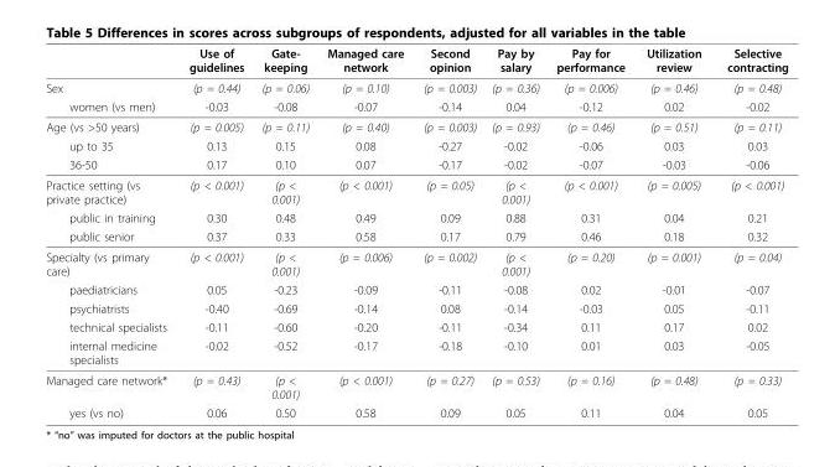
<table><thead><tr><td></td><td>Use of guidelines</td><td>Gate- keeping</td><td>Managed care network</td><td>Second opinion</td><td>Pay by salary</td><td>Pay for performance</td><td>Utilization review</td><td>Selective contracting</td></tr></thead><tbody><tr><td>Sex</td><td>(p = 0.44)</td><td>(p = 0.06)</td><td>(p = 0.10)</td><td>(p = 0.003)</td><td>(p = 0.36)</td><td>(p = 0.006)</td><td>(p = 0.46)</td><td>(p = 0.48)</td></tr><tr><td>women (vs men)</td><td>-0.03</td><td>-0.08</td><td>-0.07</td><td>-0.14</td><td>0.04</td><td>-0.12</td><td>0.02</td><td>-0.02</td></tr><tr><td>Age (vs &gt;50 years)</td><td>(p = 0.005)</td><td>(p = 0.11)</td><td>(p = 0.40)</td><td>(p = 0.003)</td><td>(p = 0.93)</td><td>(p = 0.46)</td><td>(p = 0.51)</td><td>(p = 0.11)</td></tr><tr><td>up to 35</td><td>0.13</td><td>0.15</td><td>0.08</td><td>-0.27</td><td>-0.02</td><td>-0.06</td><td>0.03</td><td>0.03</td></tr><tr><td>36-50</td><td>0.17</td><td>0.10</td><td>0.07</td><td>-0.17</td><td>-0.02</td><td>-0.07</td><td>-0.03</td><td>-0.06</td></tr><tr><td>Practice setting (vs private practice)</td><td>(p &lt; 0.001)</td><td>(p &lt; 0.001)</td><td>(p &lt; 0.001)</td><td>(p = 0.05)</td><td>(p &lt; 0.001)</td><td>(p &lt; 0.001)</td><td>(p = 0.005)</td><td>(p &lt; 0.001)</td></tr><tr><td>public in training</td><td>0.30</td><td>0.48</td><td>0.49</td><td>0.09</td><td>0.88</td><td>0.31</td><td>0.04</td><td>0.21</td></tr><tr><td>public senior</td><td>0.37</td><td>0.33</td><td>0.58</td><td>0.17</td><td>0.79</td><td>0.46</td><td>0.18</td><td>0.32</td></tr><tr><td>Specialty (vs primary care)</td><td>(p &lt; 0.001)</td><td>(p &lt; 0.001)</td><td>(p = 0.006)</td><td>(p = 0.002)</td><td>(p &lt; 0.001)</td><td>(p = 0.20)</td><td>(p = 0.001)</td><td>(p = 0.04)</td></tr><tr><td>paediatricians</td><td>0.05</td><td>-0.23</td><td>-0.09</td><td>-0.11</td><td>-0.08</td><td>0.02</td><td>-0.01</td><td>-0.07</td></tr><tr><td>psychiatrists</td><td>-0.40</td><td>-0.69</td><td>-0.14</td><td>0.08</td><td>-0.14</td><td>-0.03</td><td>0.05</td><td>-0.11</td></tr><tr><td>technical specialists</td><td>-0.11</td><td>-0.60</td><td>-0.20</td><td>-0.11</td><td>-0.34</td><td>0.11</td><td>0.17</td><td>0.02</td></tr><tr><td>internal medicine specialists</td><td>-0.02</td><td>-0.52</td><td>-0.17</td><td>-0.18</td><td>-0.10</td><td>0.01</td><td>0.03</td><td>-0.05</td></tr><tr><td>Managed care network*</td><td>(p = 0.43)</td><td>(p &lt; 0.001)</td><td>(p &lt; 0.001)</td><td>(p = 0.27)</td><td>(p = 0.53)</td><td>(p = 0.16)</td><td>(p = 0.48)</td><td>(p = 0.33)</td></tr><tr><td>yes (vs no)</td><td>0.06</td><td>0.50</td><td>0.58</td><td>0.09</td><td>0.05</td><td>0.11</td><td>0.04</td><td>0.05</td></tr></tbody></table>